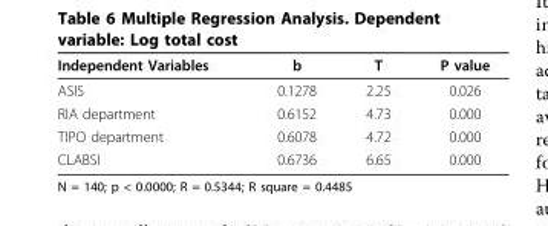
<table><thead><tr><td>Independent Variables</td><td>b</td><td>T</td><td>P value</td></tr></thead><tbody><tr><td>ASIS</td><td>0.1278</td><td>2.25</td><td>0.026</td></tr><tr><td>RIA department</td><td>0.6152</td><td>4.73</td><td>0.000</td></tr><tr><td>TIPO department</td><td>0.6078</td><td>4.72</td><td>0.000</td></tr><tr><td>CLABSI</td><td>0.6736</td><td>6.65</td><td>0.000</td></tr></tbody></table>